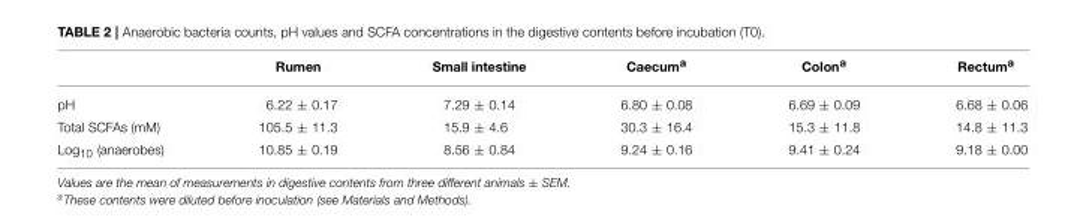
<table><thead><tr><td></td><td>Rumen</td><td>Small intestine</td><td>Caecum<sup>a</sup></td><td>Colon<sup>a</sup></td><td>Rectum<sup>a</sup></td></tr></thead><tbody><tr><td>pH</td><td>6.22 ± 0.17</td><td>7.29 ± 0.14</td><td>6.80 ± 0.08</td><td>6.69 ± 0.09</td><td>6.68 ± 0.06</td></tr><tr><td>Total SCFAs (mM)</td><td>105.5 ± 11.3</td><td>15.9 ± 4.6</td><td>30.3 ± 16.4</td><td>15.3 ± 11.8</td><td>14.8 ± 11.3</td></tr><tr><td>Log<sub>10</sub> (anaerobes)</td><td>10.85 ± 0.19</td><td>8.56 ± 0.84</td><td>9.24 ± 0.16</td><td>9.41 ± 0.24</td><td>9.18 ± 0.00</td></tr></tbody></table>